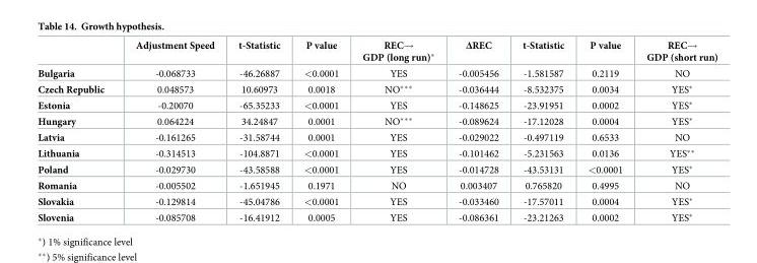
<table><thead><tr><td></td><td>Adjustment Speed</td><td>t-Statistic</td><td>P value</td><td>REC→ GDP (long run)*</td><td>ΔREC</td><td>t-Statistic</td><td>P value</td><td>REC→ GDP (short run)</td></tr></thead><tbody><tr><td>Bulgaria</td><td>-0.068733</td><td>-46.26887</td><td>&lt;0.0001</td><td>YES</td><td>-0.005456</td><td>-1.581587</td><td>0.2119</td><td>NO</td></tr><tr><td>Czech Republic</td><td>0.048573</td><td>10.60973</td><td>0.0018</td><td>NO***</td><td>-0.036444</td><td>-8.532375</td><td>0.0034</td><td>YES*</td></tr><tr><td>Estonia</td><td>-0.20070</td><td>-65.35233</td><td>&lt;0.0001</td><td>YES</td><td>-0.148625</td><td>-23.91951</td><td>0.0002</td><td>YES*</td></tr><tr><td>Hungary</td><td>0.064224</td><td>34.24847</td><td>0.0001</td><td>NO***</td><td>-0.089624</td><td>-17.12028</td><td>0.0004</td><td>YES*</td></tr><tr><td>Latvia</td><td>-0.161265</td><td>-31.58744</td><td>0.0001</td><td>YES</td><td>-0.029022</td><td>-0.497119</td><td>0.6533</td><td>NO</td></tr><tr><td>Lithuania</td><td>-0.314513</td><td>-104.8871</td><td>&lt;0.0001</td><td>YES</td><td>-0.101462</td><td>-5.231563</td><td>0.0136</td><td>YES**</td></tr><tr><td>Poland</td><td>-0.029730</td><td>-43.58588</td><td>&lt;0.0001</td><td>YES</td><td>-0.014728</td><td>-43.53131</td><td>&lt;0.0001</td><td>YES*</td></tr><tr><td>Romania</td><td>-0.005502</td><td>-1.651945</td><td>0.1971</td><td>NO</td><td>0.003407</td><td>0.765820</td><td>0.4995</td><td>NO</td></tr><tr><td>Slovakia</td><td>-0.129814</td><td>-45.04786</td><td>&lt;0.0001</td><td>YES</td><td>-0.033460</td><td>-17.57011</td><td>0.0004</td><td>YES*</td></tr><tr><td>Slovenia</td><td>-0.085708</td><td>-16.41912</td><td>0.0005</td><td>YES</td><td>-0.086361</td><td>-23.21263</td><td>0.0002</td><td>YES*</td></tr></tbody></table>